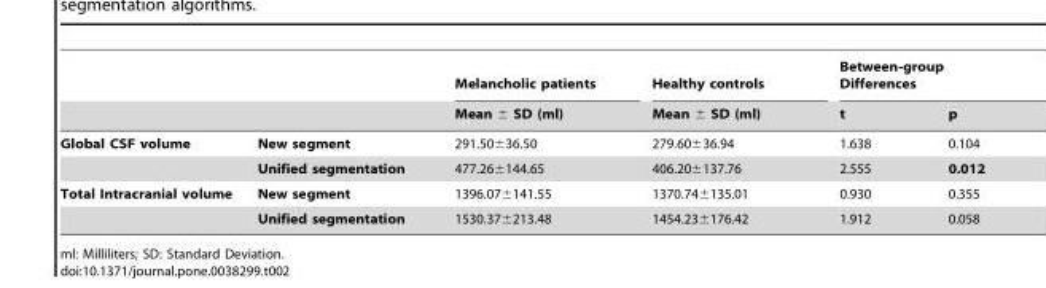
<table><thead><tr><td rowspan="2"></td><td rowspan="2"></td><td rowspan="2">Melancholic patients Mean ± SD (ml)</td><td rowspan="2">Healthy controls Mean ± SD (ml)</td><td colspan="2">Between-group Differences</td></tr><tr><td>t</td><td>p</td></tr></thead><tbody><tr><td rowspan="2">Global CSF volume</td><td>New segment</td><td>291.50±36.50</td><td>279.60±36.94</td><td>1.638</td><td>0.104</td></tr><tr><td>Unified segmentation</td><td>477.26±144.65</td><td>406.20±137.76</td><td>2.555</td><td>0.012</td></tr><tr><td rowspan="2">Total Intracranial volume</td><td>New segment</td><td>1396.07±141.55</td><td>1370.74±135.01</td><td>0.930</td><td>0.355</td></tr><tr><td>Unified segmentation</td><td>1530.37±213.48</td><td>1454.23±176.42</td><td>1.912</td><td>0.058</td></tr></tbody></table>